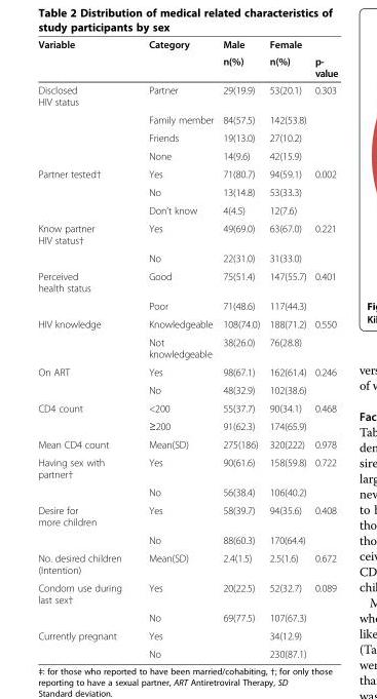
<table><thead><tr><td rowspan="2">Variable</td><td rowspan="2">Category</td><td rowspan="2">Male n(%)</td><td rowspan="2">Female n(%)</td><td rowspan="2">p- value</td></tr><tr></tr></thead><tbody><tr><td rowspan="4">Disclosed HIV status</td><td>Partner</td><td>29(19.9)</td><td>53(20.1)</td><td>0.303</td></tr><tr><td>Family member</td><td>84(57.5)</td><td>142(53.8)</td><td></td></tr><tr><td>Friends</td><td>19(13.0)</td><td>27(10.2)</td><td></td></tr><tr><td>None</td><td>14(9.6)</td><td>42(15.9)</td><td></td></tr><tr><td rowspan="3">Partner tested†</td><td>Yes</td><td>71(80.7)</td><td>94(59.1)</td><td>0.002</td></tr><tr><td>No</td><td>13(14.8)</td><td>53(33.3)</td><td></td></tr><tr><td>Don’t know</td><td>4(4.5)</td><td>12(7.6)</td><td></td></tr><tr><td rowspan="2">Know partner HIV status†</td><td>Yes</td><td>49(69.0)</td><td>63(67.0)</td><td>0.221</td></tr><tr><td>No</td><td>22(31.0)</td><td>31(33.0)</td><td></td></tr><tr><td rowspan="2">Perceived health status</td><td>Good</td><td>75(51.4)</td><td>147(55.7)</td><td>0.401</td></tr><tr><td>Poor</td><td>71(48.6)</td><td>117(44.3)</td><td></td></tr><tr><td rowspan="2">HIV knowledge</td><td>Knowledgeable</td><td>108(74.0)</td><td>188(71.2)</td><td>0.550</td></tr><tr><td>Not knowledgeable</td><td>38(26.0)</td><td>76(28.8)</td><td></td></tr><tr><td rowspan="2">On ART</td><td>Yes</td><td>98(67.1)</td><td>162(61.4)</td><td>0.246</td></tr><tr><td>No</td><td>48(32.9)</td><td>102(38.6)</td><td></td></tr><tr><td rowspan="2">CD4 count</td><td>&lt;200</td><td>55(37.7)</td><td>90(34.1)</td><td>0.468</td></tr><tr><td>≥200</td><td>91(62.3)</td><td>174(65.9)</td><td></td></tr><tr><td>Mean CD4 count</td><td>Mean(SD)</td><td>275(186)</td><td>320(222)</td><td>0.978</td></tr><tr><td rowspan="2">Having sex with partner†</td><td>Yes</td><td>90(61.6)</td><td>158(59.8)</td><td>0.722</td></tr><tr><td>No</td><td>56(38.4)</td><td>106(40.2)</td><td></td></tr><tr><td rowspan="2">Desire for more children</td><td>Yes</td><td>58(39.7)</td><td>94(35.6)</td><td>0.408</td></tr><tr><td>No</td><td>88(60.3)</td><td>170(64.4)</td><td></td></tr><tr><td>No. desired children (Intention)</td><td>Mean(SD)</td><td>2.4(1.5)</td><td>2.5(1.6)</td><td>0.672</td></tr><tr><td rowspan="2">Condom use during last sex†</td><td>Yes</td><td>20(22.5)</td><td>52(32.7)</td><td>0.089</td></tr><tr><td>No</td><td>69(77.5)</td><td>107(67.3)</td><td></td></tr><tr><td rowspan="2">Currently pregnant</td><td>Yes</td><td></td><td>34(12.9)</td><td></td></tr><tr><td>No</td><td></td><td>230(87.1)</td><td></td></tr></tbody></table>